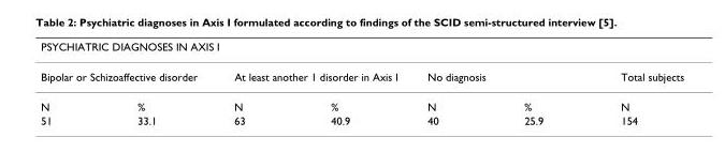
<table><thead><tr><td colspan="6">PSYCHIATRIC DIAGNOSES IN AXIS I</td><td rowspan="3">Total subjects N</td></tr><tr><td colspan="2">Bipolar or Schizoaffective disorder</td><td colspan="2">At least another 1 disorder in Axis I</td><td colspan="2">No diagnosis</td></tr><tr><td>N</td><td>%</td><td>N</td><td>%</td><td>N</td><td>%</td></tr></thead><tbody><tr><td>51</td><td>33.1</td><td>63</td><td>40.9</td><td>40</td><td>25.9</td><td>154</td></tr></tbody></table>